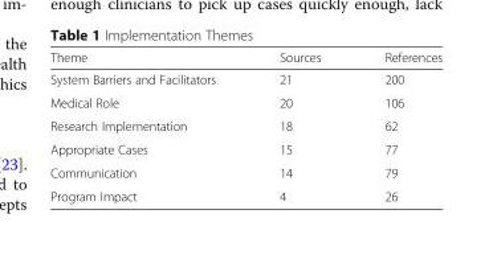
<table><thead><tr><td>Theme</td><td>Sources</td><td>References</td></tr></thead><tbody><tr><td>System Barriers and Facilitators</td><td>21</td><td>200</td></tr><tr><td>Medical Role</td><td>20</td><td>106</td></tr><tr><td>Research Implementation</td><td>18</td><td>62</td></tr><tr><td>Appropriate Cases</td><td>15</td><td>77</td></tr><tr><td>Communication</td><td>14</td><td>79</td></tr><tr><td>Program Impact</td><td>4</td><td>26</td></tr></tbody></table>